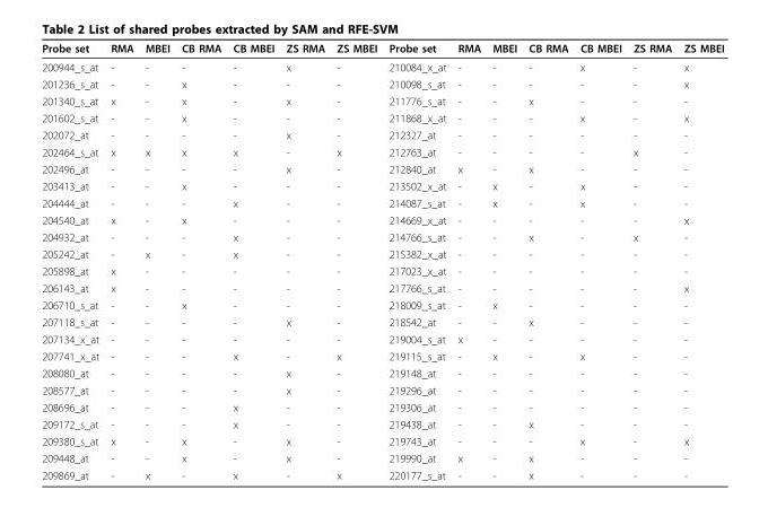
<table><thead><tr><td>Probe set</td><td>RMA</td><td>MBEI</td><td>CB RMA</td><td>CB MBEI</td><td>ZS RMA</td><td>ZS MBEI</td><td>Probe set</td><td>RMA</td><td>MBEI</td><td>CB RMA</td><td>CB MBEI</td><td>ZS RMA</td><td>ZS MBEI</td></tr></thead><tbody><tr><td>200944_s_at</td><td>-</td><td>-</td><td>-</td><td>-</td><td>x</td><td>-</td><td>210084_x_at</td><td>-</td><td>-</td><td>-</td><td>x</td><td>-</td><td>x</td></tr><tr><td>201236_s_at</td><td>-</td><td>-</td><td>x</td><td>-</td><td>-</td><td>-</td><td>210098_s_at</td><td>-</td><td>-</td><td>-</td><td>-</td><td>-</td><td>x</td></tr><tr><td>201340_s_at</td><td>x</td><td>-</td><td>x</td><td>-</td><td>x</td><td>-</td><td>211776_s_at</td><td>-</td><td>-</td><td>x</td><td>-</td><td>-</td><td>-</td></tr><tr><td>201602_s_at</td><td>-</td><td>-</td><td>x</td><td>-</td><td>-</td><td>-</td><td>211868_x_at</td><td>-</td><td>-</td><td>-</td><td>x</td><td>-</td><td>x</td></tr><tr><td>202072_at</td><td>-</td><td>-</td><td>-</td><td>-</td><td>x</td><td>-</td><td>212327_at</td><td>-</td><td>-</td><td>-</td><td>-</td><td>-</td><td>-</td></tr><tr><td>202464_s_at</td><td>x</td><td>x</td><td>x</td><td>x</td><td>-</td><td>x</td><td>212763_at</td><td>-</td><td>-</td><td>-</td><td>-</td><td>x</td><td>-</td></tr><tr><td>202496_at</td><td>-</td><td>-</td><td>-</td><td>-</td><td>x</td><td>-</td><td>212840_at</td><td>x</td><td>-</td><td>x</td><td>-</td><td>-</td><td>-</td></tr><tr><td>203413_at</td><td>-</td><td>-</td><td>x</td><td>-</td><td>-</td><td>-</td><td>213502_x_at</td><td>-</td><td>x</td><td>-</td><td>x</td><td>-</td><td>-</td></tr><tr><td>204444_at</td><td>-</td><td>-</td><td>-</td><td>x</td><td>-</td><td>-</td><td>214087_s_at</td><td>-</td><td>x</td><td>-</td><td>x</td><td>-</td><td>-</td></tr><tr><td>204540_at</td><td>x</td><td>-</td><td>x</td><td>-</td><td>-</td><td>-</td><td>214669_x_at</td><td>-</td><td>-</td><td>-</td><td>-</td><td>-</td><td>x</td></tr><tr><td>204932_at</td><td>-</td><td>-</td><td>-</td><td>x</td><td>-</td><td>-</td><td>214766_s_at</td><td>-</td><td>-</td><td>x</td><td>-</td><td>x</td><td>-</td></tr><tr><td>205242_at</td><td>-</td><td>x</td><td>-</td><td>x</td><td>-</td><td>-</td><td>215382_x_at</td><td>-</td><td>-</td><td>-</td><td>-</td><td>-</td><td>-</td></tr><tr><td>205898_at</td><td>x</td><td>-</td><td>-</td><td>-</td><td>-</td><td>-</td><td>217023_x_at</td><td>-</td><td>-</td><td>-</td><td>-</td><td>-</td><td>-</td></tr><tr><td>206143_at</td><td>x</td><td>-</td><td>-</td><td>-</td><td>-</td><td>-</td><td>217766_s_at</td><td>-</td><td>-</td><td>-</td><td>-</td><td>-</td><td>x</td></tr><tr><td>206710_s_at</td><td>-</td><td>-</td><td>x</td><td>-</td><td>-</td><td>-</td><td>218009_s_at</td><td>-</td><td>x</td><td>-</td><td>-</td><td>-</td><td>-</td></tr><tr><td>207118_s_at</td><td>-</td><td>-</td><td>-</td><td>-</td><td>x</td><td>-</td><td>218542_at</td><td>-</td><td>-</td><td>x</td><td>-</td><td>-</td><td>-</td></tr><tr><td>207134_x_at</td><td>-</td><td>-</td><td>-</td><td>-</td><td>-</td><td>-</td><td>219004_s_at</td><td>x</td><td>-</td><td>-</td><td>-</td><td>-</td><td>-</td></tr><tr><td>207741_x_at</td><td>-</td><td>-</td><td>-</td><td>x</td><td>-</td><td>x</td><td>219115_s_at</td><td>-</td><td>x</td><td>-</td><td>x</td><td>-</td><td>-</td></tr><tr><td>208080_at</td><td>-</td><td>-</td><td>-</td><td>-</td><td>x</td><td>-</td><td>219148_at</td><td>-</td><td>-</td><td>-</td><td>-</td><td>-</td><td>-</td></tr><tr><td>208577_at</td><td>-</td><td>-</td><td>-</td><td>-</td><td>x</td><td>-</td><td>219296_at</td><td>-</td><td>-</td><td>-</td><td>-</td><td>-</td><td>-</td></tr><tr><td>208696_at</td><td>-</td><td>-</td><td>-</td><td>x</td><td>-</td><td>-</td><td>219306_at</td><td>-</td><td>-</td><td>-</td><td>-</td><td>-</td><td>-</td></tr><tr><td>209172_s_at</td><td>-</td><td>-</td><td>-</td><td>x</td><td>-</td><td>-</td><td>219438_at</td><td>-</td><td>-</td><td>x</td><td>-</td><td>-</td><td>-</td></tr><tr><td>209380_s_at</td><td>x</td><td>-</td><td>x</td><td>-</td><td>x</td><td>-</td><td>219743_at</td><td>-</td><td>-</td><td>-</td><td>x</td><td>-</td><td>x</td></tr><tr><td>209448_at</td><td>-</td><td>-</td><td>x</td><td>-</td><td>x</td><td>-</td><td>219990_at</td><td>x</td><td>-</td><td>x</td><td>-</td><td>-</td><td>-</td></tr><tr><td>209869_at</td><td>-</td><td>x</td><td>-</td><td>x</td><td>-</td><td>x</td><td>220177_s_at</td><td>-</td><td>-</td><td>x</td><td>-</td><td>-</td><td>-</td></tr></tbody></table>